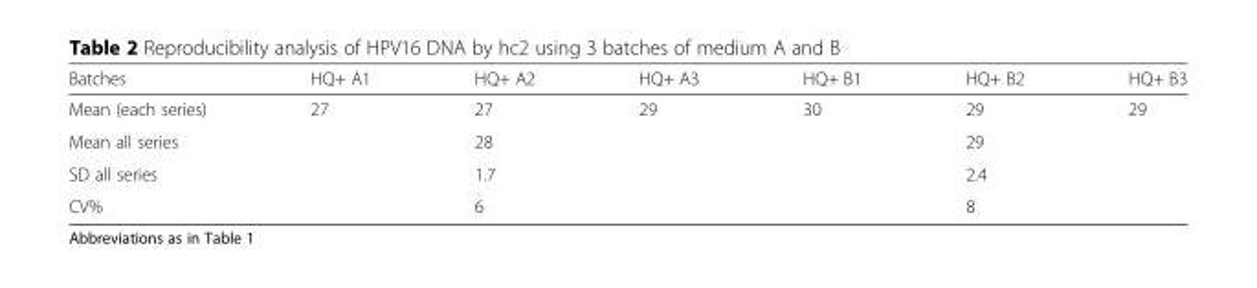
<table><thead><tr><td>Batches</td><td>HQ+ A1</td><td>HQ+ A2</td><td>HQ+ A3</td><td>HQ+ B1</td><td>HQ+ B2</td><td>HQ+ B3</td></tr></thead><tbody><tr><td>Mean (each series)</td><td>27</td><td>27</td><td>29</td><td>30</td><td>29</td><td>29</td></tr><tr><td>Mean all series</td><td></td><td>28</td><td></td><td></td><td>29</td><td></td></tr><tr><td>SD all series</td><td></td><td>1.7</td><td></td><td></td><td>2.4</td><td></td></tr><tr><td>CV%</td><td></td><td>6</td><td></td><td></td><td>8</td><td></td></tr></tbody></table>